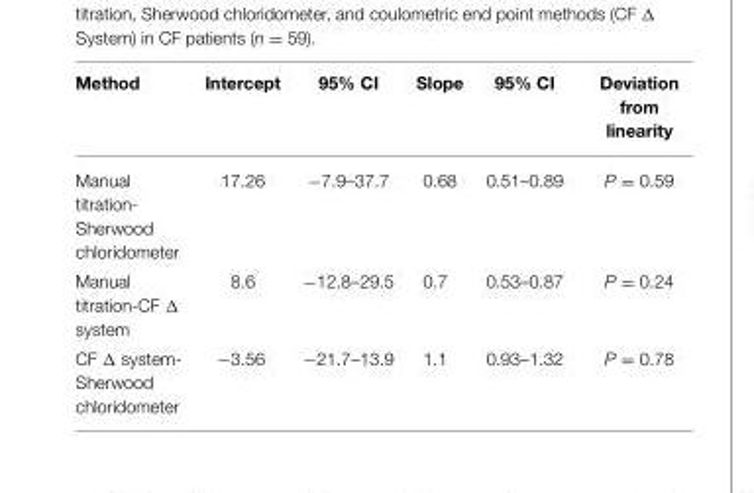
<table><thead><tr><td>Method</td><td>Intercept</td><td>95% CI</td><td>Slope</td><td>95% CI</td><td>Deviation from linearity</td></tr></thead><tbody><tr><td>Manual titration- Sherwood chloridometer</td><td>17.26</td><td>−7.9–37.7</td><td>0.68</td><td>0.51–0.89</td><td>P = 0.59</td></tr><tr><td>Manual titration-CF Δ system</td><td>8.6</td><td>−12.8–29.5</td><td>0.7</td><td>0.53–0.87</td><td>P = 0.24</td></tr><tr><td>CF Δ system- Sherwood chloridometer</td><td>−3.56</td><td>−21.7–13.9</td><td>1.1</td><td>0.93–1.32</td><td>P = 0.78</td></tr></tbody></table>